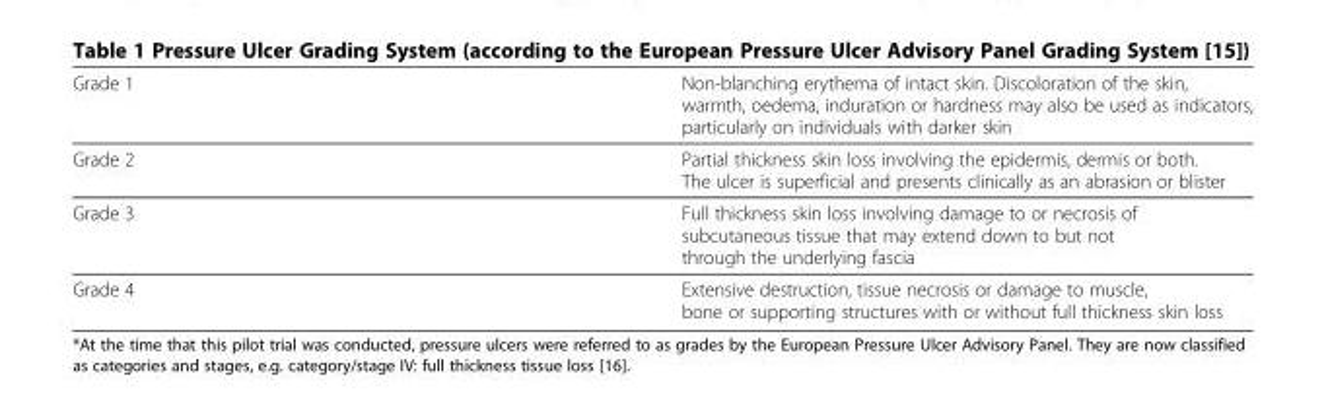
<table><thead><tr><td>Grade 1</td><td>Non-blanching erythema of intact skin. Discoloration of the skin, warmth, oedema, induration or hardness may also be used as indicators, particularly on individuals with darker skin</td></tr></thead><tbody><tr><td>Grade 2</td><td>Partial thickness skin loss involving the epidermis, dermis or both. The ulcer is superficial and presents clinically as an abrasion or blister</td></tr><tr><td>Grade 3</td><td>Full thickness skin loss involving damage to or necrosis of subcutaneous tissue that may extend down to but not through the underlying fascia</td></tr><tr><td>Grade 4</td><td>Extensive destruction, tissue necrosis or damage to muscle, bone or supporting structures with or without full thickness skin loss</td></tr></tbody></table>